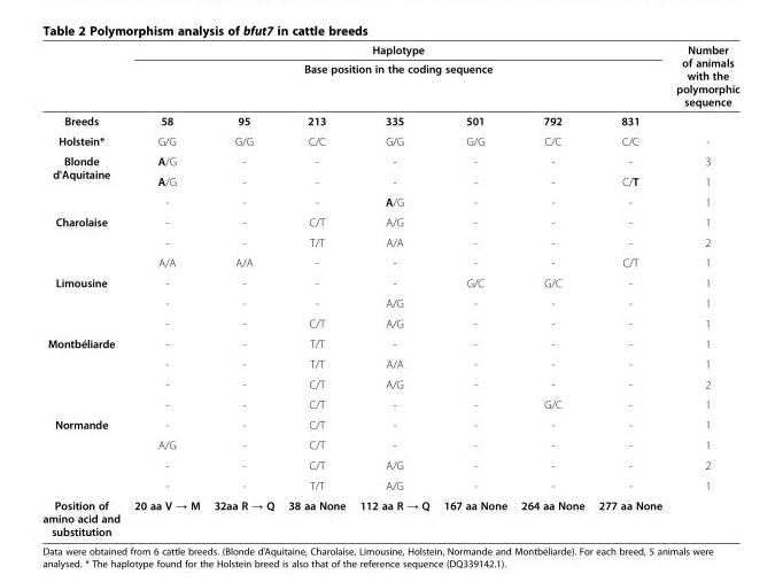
<table><thead><tr><td rowspan="3">Breeds</td><td rowspan="2" colspan="7">Haplotype Base position in the coding sequence</td><td rowspan="3">Number of animals with the polymorphic sequence</td></tr><tr></tr><tr><td>58</td><td>95</td><td>213</td><td>335</td><td>501</td><td>792</td><td>831</td></tr></thead><tbody><tr><td>Holstein*</td><td>G/G</td><td>G/G</td><td>C/C</td><td>G/G</td><td>G/G</td><td>C/C</td><td>C/C</td><td>-</td></tr><tr><td rowspan="3">Blonde d&#x27;Aquitaine</td><td>A/G</td><td>-</td><td>-</td><td>-</td><td>-</td><td>-</td><td>-</td><td>3</td></tr><tr><td>A/G</td><td>-</td><td>-</td><td>-</td><td>-</td><td>-</td><td>C/T</td><td>1</td></tr><tr><td>-</td><td>-</td><td>-</td><td>A/G</td><td>-</td><td>-</td><td>-</td><td>1</td></tr><tr><td rowspan="3">Charolaise</td><td>-</td><td>-</td><td>C/T</td><td>A/G</td><td>-</td><td>-</td><td>-</td><td>1</td></tr><tr><td>-</td><td>-</td><td>T/T</td><td>A/A</td><td>-</td><td>-</td><td>-</td><td>2</td></tr><tr><td>A/A</td><td>A/A</td><td>-</td><td>-</td><td>-</td><td>-</td><td>C/T</td><td>1</td></tr><tr><td rowspan="3">Limousine</td><td>-</td><td>-</td><td>-</td><td>-</td><td>G/C</td><td>G/C</td><td>-</td><td>1</td></tr><tr><td>-</td><td>-</td><td>-</td><td>A/G</td><td>-</td><td>-</td><td>-</td><td>1</td></tr><tr><td>-</td><td>-</td><td>C/T</td><td>A/G</td><td>-</td><td>-</td><td>-</td><td>1</td></tr><tr><td rowspan="4">Montbéliarde</td><td>-</td><td>-</td><td>T/T</td><td>-</td><td>-</td><td>-</td><td>-</td><td>1</td></tr><tr><td>-</td><td>-</td><td>T/T</td><td>A/A</td><td>-</td><td>-</td><td>-</td><td>1</td></tr><tr><td>-</td><td>-</td><td>C/T</td><td>A/G</td><td>-</td><td>-</td><td>-</td><td>2</td></tr><tr><td>-</td><td>-</td><td>C/T</td><td>-</td><td>-</td><td>G/C</td><td>-</td><td>1</td></tr><tr><td rowspan="4">Normande</td><td>-</td><td>-</td><td>C/T</td><td>-</td><td>-</td><td>-</td><td>-</td><td>1</td></tr><tr><td>A/G</td><td>-</td><td>C/T</td><td>-</td><td>-</td><td>-</td><td>-</td><td>1</td></tr><tr><td>-</td><td>-</td><td>C/T</td><td>A/G</td><td>-</td><td>-</td><td>-</td><td>2</td></tr><tr><td>-</td><td>-</td><td>T/T</td><td>A/G</td><td>-</td><td>-</td><td>-</td><td>1</td></tr><tr><td>Position of amino acid and substitution</td><td>20 aa V → M</td><td>32aa R → Q</td><td>38 aa None</td><td>112 aa R → Q</td><td>167 aa None</td><td>264 aa None</td><td>277 aa None</td><td></td></tr></tbody></table>